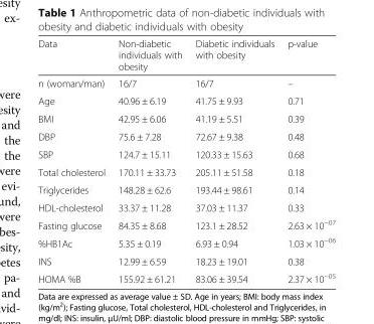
<table><thead><tr><td>Data</td><td>Non-diabetic individuals with obesity</td><td>Diabetic individuals with obesity</td><td>p-value</td></tr></thead><tbody><tr><td>n (woman/man)</td><td>16/7</td><td>16/7</td><td>–</td></tr><tr><td>Age</td><td>40.96 ± 6.19</td><td>41.75 ± 9.93</td><td>0.71</td></tr><tr><td>BMI</td><td>42.95 ± 6.06</td><td>41.19 ± 5.51</td><td>0.39</td></tr><tr><td>DBP</td><td>75.6 ± 7.28</td><td>72.67 ± 9.38</td><td>0.48</td></tr><tr><td>SBP</td><td>124.7 ± 15.11</td><td>120.33 ± 15.63</td><td>0.68</td></tr><tr><td>Total cholesterol</td><td>170.11 ± 33.73</td><td>205.11 ± 51.58</td><td>0.18</td></tr><tr><td>Triglycerides</td><td>148.28 ± 62.6</td><td>193.44 ± 98.61</td><td>0.14</td></tr><tr><td>HDL-cholesterol</td><td>33.37 ± 11.28</td><td>37.03 ± 11.37</td><td>0.33</td></tr><tr><td>Fasting glucose</td><td>84.35 ± 8.68</td><td>123.1 ± 28.52</td><td>2.63 × 10<sup>−07</sup></td></tr><tr><td>%HB1Ac</td><td>5.35 ± 0.19</td><td>6.93 ± 0.94</td><td>1.03 × 10<sup>−06</sup></td></tr><tr><td>INS</td><td>12.99 ± 6.59</td><td>18.23 ± 19.01</td><td>0.38</td></tr><tr><td>HOMA %B</td><td>155.92 ± 61.21</td><td>83.06 ± 39.54</td><td>2.37 × 10<sup>−05</sup></td></tr></tbody></table>